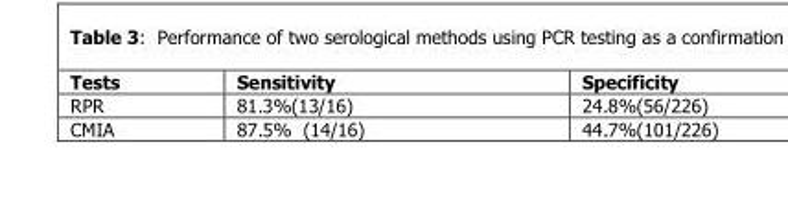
<table><thead><tr><td>Tests</td><td>Sensitivity</td><td>Specificity</td></tr></thead><tbody><tr><td>RPR</td><td>81.3%(13/16)</td><td>24.8%(56/226)</td></tr><tr><td>CMIA</td><td>87.5% (14/16)</td><td>44.7%(101/226)</td></tr></tbody></table>